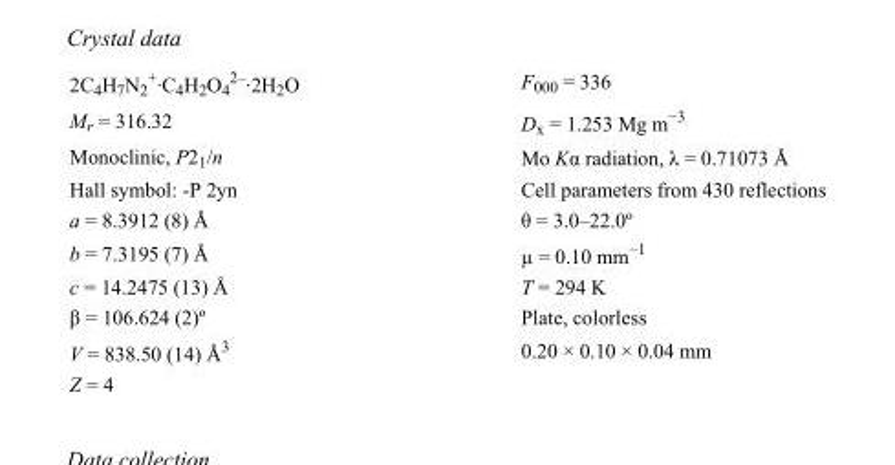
<table><tbody><tr><td>2C<sub>4</sub>H<sub>7</sub>N<sub>2</sub> <sup>+</sup>·C<sub>4</sub>H<sub>2</sub>O<sub>4</sub> <sup>2–</sup>·2H<sub>2</sub>O</td><td>F000 = 336</td></tr><tr><td>M<sub>r</sub> = 316.32</td><td>D<sub>x</sub> = 1.253 Mg m<sup>−3</sup></td></tr><tr><td>Monoclinic, P2<sub>1</sub>/n</td><td>Mo Kα radiation, λ = 0.71073 Å</td></tr><tr><td>Hall symbol: -P 2yn</td><td>Cell parameters from 430 reflections</td></tr><tr><td>a = 8.3912 (8) Å</td><td>θ = 3.0–22.0º</td></tr><tr><td>b = 7.3195 (7) Å</td><td>µ = 0.10 mm<sup>−1</sup></td></tr><tr><td>c = 14.2475 (13) Å</td><td>T = 294 K</td></tr><tr><td>β = 106.624 (2)º</td><td>Plate, colorless</td></tr><tr><td>V = 838.50 (14) Å<sup>3</sup></td><td>0.20 × 0.10 × 0.04 mm</td></tr><tr><td>Z = 4</td><td></td></tr></tbody></table>